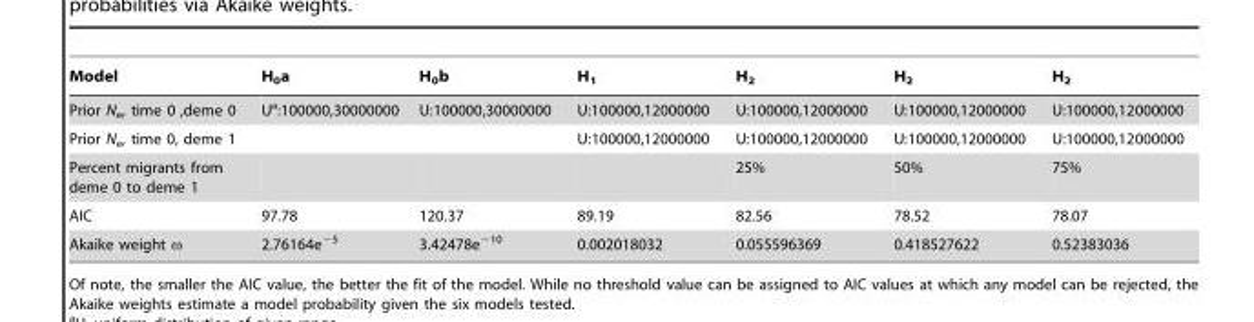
<table><thead><tr><td>Model</td><td>H<sub>0</sub>a</td><td>H<sub>0</sub>b</td><td>H<sub>1</sub></td><td>H<sub>2</sub></td><td>H<sub>2</sub></td><td>H<sub>2</sub></td></tr></thead><tbody><tr><td>Prior N<sub>e</sub>, time 0 ,deme 0</td><td>U<sup>a</sup>:100000,30000000</td><td>U:100000,30000000</td><td>U:100000,12000000</td><td>U:100000,12000000</td><td>U:100000,12000000</td><td>U:100000,12000000</td></tr><tr><td>Prior N<sub>e</sub>, time 0, deme 1</td><td></td><td></td><td>U:100000,12000000</td><td>U:100000,12000000</td><td>U:100000,12000000</td><td>U:100000,12000000</td></tr><tr><td>Percent migrants from deme 0 to deme 1</td><td></td><td></td><td></td><td>25%</td><td>50%</td><td>75%</td></tr><tr><td>AIC</td><td>97.78</td><td>120.37</td><td>89.19</td><td>82.56</td><td>78.52</td><td>78.07</td></tr><tr><td>Akaike weight ω</td><td>2.76164e<sup>−5</sup></td><td>3.42478e<sup>−10</sup></td><td>0.002018032</td><td>0.055596369</td><td>0.418527622</td><td>0.52383036</td></tr></tbody></table>